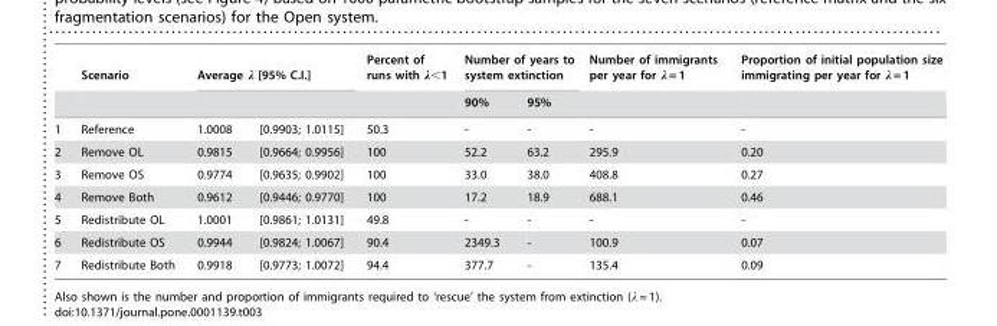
<table><thead><tr><td rowspan="2"></td><td rowspan="2">Scenario</td><td colspan="2">Average λ [95% C.I.]</td><td rowspan="2">Percent of runs with λ&lt;1</td><td colspan="2">Number of years to system extinction</td><td rowspan="2">Number of immigrants per year for λ = 1</td><td rowspan="2">Proportion of initial population size immigrating per year for λ = 1</td></tr><tr><td></td><td></td><td>90%</td><td>95%</td></tr></thead><tbody><tr><td>1</td><td>Reference</td><td>1.0008</td><td>[0.9903; 1.0115]</td><td>50.3</td><td>-</td><td>-</td><td>-</td><td>-</td></tr><tr><td>2</td><td>Remove OL</td><td>0.9815</td><td>[0.9664; 0.9956]</td><td>100</td><td>52.2</td><td>63.2</td><td>295.9</td><td>0.20</td></tr><tr><td>3</td><td>Remove OS</td><td>0.9774</td><td>[0.9635; 0.9902]</td><td>100</td><td>33.0</td><td>38.0</td><td>408.8</td><td>0.27</td></tr><tr><td>4</td><td>Remove Both</td><td>0.9612</td><td>[0.9446; 0.9770]</td><td>100</td><td>17.2</td><td>18.9</td><td>688.1</td><td>0.46</td></tr><tr><td>5</td><td>Redistribute OL</td><td>1.0001</td><td>[0.9861; 1.0131]</td><td>49.8</td><td>-</td><td>-</td><td>-</td><td>-</td></tr><tr><td>6</td><td>Redistribute OS</td><td>0.9944</td><td>[0.9824; 1.0067]</td><td>90.4</td><td>2349.3</td><td>-</td><td>100.9</td><td>0.07</td></tr><tr><td>7</td><td>Redistribute Both</td><td>0.9918</td><td>[0.9773; 1.0072]</td><td>94.4</td><td>377.7</td><td>-</td><td>135.4</td><td>0.09</td></tr></tbody></table>